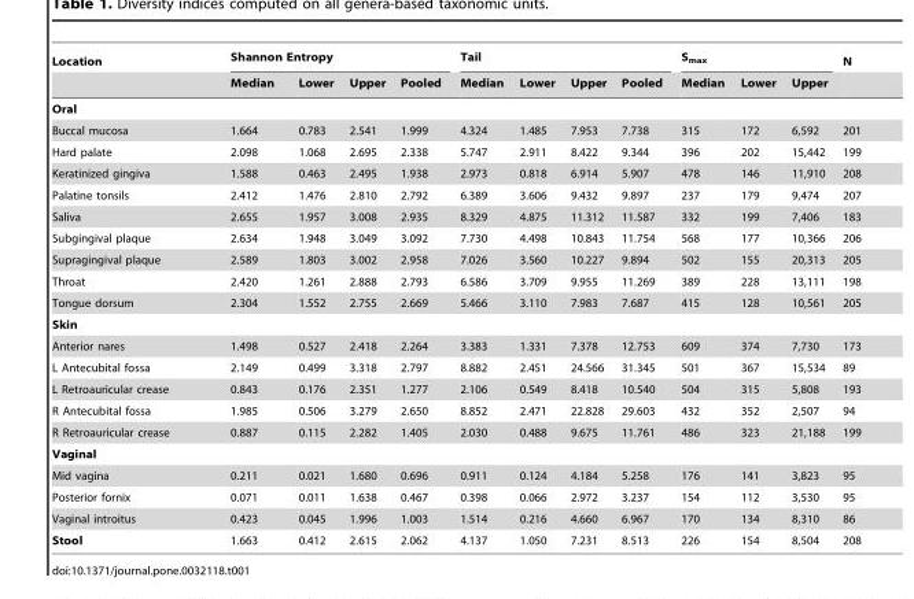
<table><thead><tr><td rowspan="2">Location</td><td colspan="4">Shannon Entropy</td><td colspan="4">Tail</td><td colspan="3">S<sub>max</sub></td><td rowspan="2">N</td></tr><tr><td>Median</td><td>Lower</td><td>Upper</td><td>Pooled</td><td>Median</td><td>Lower</td><td>Upper</td><td>Pooled</td><td>Median</td><td>Lower</td><td>Upper</td></tr></thead><tbody><tr><td colspan="13">Oral</td></tr><tr><td>Buccal mucosa</td><td>1.664</td><td>0.783</td><td>2.541</td><td>1.999</td><td>4.324</td><td>1.485</td><td>7.953</td><td>7.738</td><td>315</td><td>172</td><td>6,592</td><td>201</td></tr><tr><td>Hard palate</td><td>2.098</td><td>1.068</td><td>2.695</td><td>2.338</td><td>5.747</td><td>2.911</td><td>8.422</td><td>9.344</td><td>396</td><td>202</td><td>15,442</td><td>199</td></tr><tr><td>Keratinized gingiva</td><td>1.588</td><td>0.463</td><td>2.495</td><td>1.938</td><td>2.973</td><td>0.818</td><td>6.914</td><td>5.907</td><td>478</td><td>146</td><td>11,910</td><td>208</td></tr><tr><td>Palatine tonsils</td><td>2.412</td><td>1.476</td><td>2.810</td><td>2.792</td><td>6.389</td><td>3.606</td><td>9.432</td><td>9.897</td><td>237</td><td>179</td><td>9,474</td><td>207</td></tr><tr><td>Saliva</td><td>2.655</td><td>1.957</td><td>3.008</td><td>2.935</td><td>8.329</td><td>4.875</td><td>11.312</td><td>11.587</td><td>332</td><td>199</td><td>7,406</td><td>183</td></tr><tr><td>Subgingival plaque</td><td>2.634</td><td>1.948</td><td>3.049</td><td>3.092</td><td>7.730</td><td>4.498</td><td>10.843</td><td>11.754</td><td>568</td><td>177</td><td>10,366</td><td>206</td></tr><tr><td>Supragingival plaque</td><td>2.589</td><td>1.803</td><td>3.002</td><td>2.958</td><td>7.026</td><td>3.560</td><td>10.227</td><td>9.894</td><td>502</td><td>155</td><td>20,313</td><td>205</td></tr><tr><td>Throat</td><td>2.420</td><td>1.261</td><td>2.888</td><td>2.793</td><td>6.586</td><td>3.709</td><td>9.955</td><td>11.269</td><td>389</td><td>228</td><td>13,111</td><td>198</td></tr><tr><td>Tongue dorsum</td><td>2.304</td><td>1.552</td><td>2.755</td><td>2.669</td><td>5.466</td><td>3.110</td><td>7.983</td><td>7.687</td><td>415</td><td>128</td><td>10,561</td><td>205</td></tr><tr><td colspan="13">Skin</td></tr><tr><td>Anterior nares</td><td>1.498</td><td>0.527</td><td>2.418</td><td>2.264</td><td>3.383</td><td>1.331</td><td>7.378</td><td>12.753</td><td>609</td><td>374</td><td>7,730</td><td>173</td></tr><tr><td>L Antecubital fossa</td><td>2.149</td><td>0.499</td><td>3.318</td><td>2.797</td><td>8.882</td><td>2.451</td><td>24.566</td><td>31.345</td><td>501</td><td>367</td><td>15,534</td><td>89</td></tr><tr><td>L Retroauricular crease</td><td>0.843</td><td>0.176</td><td>2.351</td><td>1.277</td><td>2.106</td><td>0.549</td><td>8.418</td><td>10.540</td><td>504</td><td>315</td><td>5,808</td><td>193</td></tr><tr><td>R Antecubital fossa</td><td>1.985</td><td>0.506</td><td>3.279</td><td>2.650</td><td>8.852</td><td>2.471</td><td>22.828</td><td>29.603</td><td>432</td><td>352</td><td>2,507</td><td>94</td></tr><tr><td>R Retroauricular crease</td><td>0.887</td><td>0.115</td><td>2.282</td><td>1.405</td><td>2.030</td><td>0.488</td><td>9.675</td><td>11.761</td><td>486</td><td>323</td><td>21,188</td><td>199</td></tr><tr><td colspan="13">Vaginal</td></tr><tr><td>Mid vagina</td><td>0.211</td><td>0.021</td><td>1.680</td><td>0.696</td><td>0.911</td><td>0.124</td><td>4.184</td><td>5.258</td><td>176</td><td>141</td><td>3,823</td><td>95</td></tr><tr><td>Posterior fornix</td><td>0.071</td><td>0.011</td><td>1.638</td><td>0.467</td><td>0.398</td><td>0.066</td><td>2.972</td><td>3.237</td><td>154</td><td>112</td><td>3,530</td><td>95</td></tr><tr><td>Vaginal introitus</td><td>0.423</td><td>0.045</td><td>1.996</td><td>1.003</td><td>1.514</td><td>0.216</td><td>4.660</td><td>6.967</td><td>170</td><td>134</td><td>8,310</td><td>86</td></tr><tr><td>Stool</td><td>1.663</td><td>0.412</td><td>2.615</td><td>2.062</td><td>4.137</td><td>1.050</td><td>7.231</td><td>8.513</td><td>226</td><td>154</td><td>8,504</td><td>208</td></tr></tbody></table>